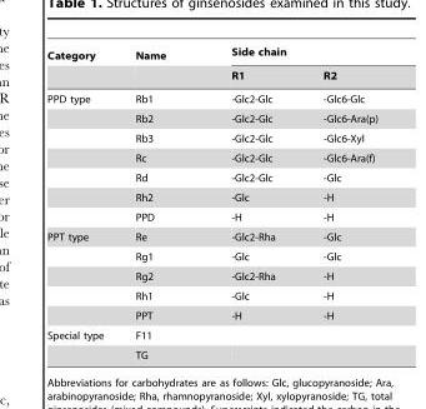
<table><thead><tr><td rowspan="2">Category</td><td rowspan="2">Name</td><td colspan="2">Side chain</td></tr><tr><td>R1</td><td>R2</td></tr></thead><tbody><tr><td rowspan="7">PPD type</td><td>Rb1</td><td>-Glc2-Glc</td><td>-Glc6-Glc</td></tr><tr><td>Rb2</td><td>-Glc2-Glc</td><td>-Glc6-Ara(p)</td></tr><tr><td>Rb3</td><td>-Glc2-Glc</td><td>-Glc6-Xyl</td></tr><tr><td>Rc</td><td>-Glc2-Glc</td><td>-Glc6-Ara(f)</td></tr><tr><td>Rd</td><td>-Glc2-Glc</td><td>-Glc</td></tr><tr><td>Rh2</td><td>-Glc</td><td>-H</td></tr><tr><td>PPD</td><td>-H</td><td>-H</td></tr><tr><td rowspan="5">PPT type</td><td>Re</td><td>-Glc2-Rha</td><td>-Glc</td></tr><tr><td>Rg1</td><td>-Glc</td><td>-Glc</td></tr><tr><td>Rg2</td><td>-Glc2-Rha</td><td>-H</td></tr><tr><td>Rh1</td><td>-Glc</td><td>-H</td></tr><tr><td>PPT</td><td>-H</td><td>-H</td></tr><tr><td rowspan="2">Special type</td><td>F11</td><td></td><td></td></tr><tr><td>TG</td><td></td><td></td></tr></tbody></table>